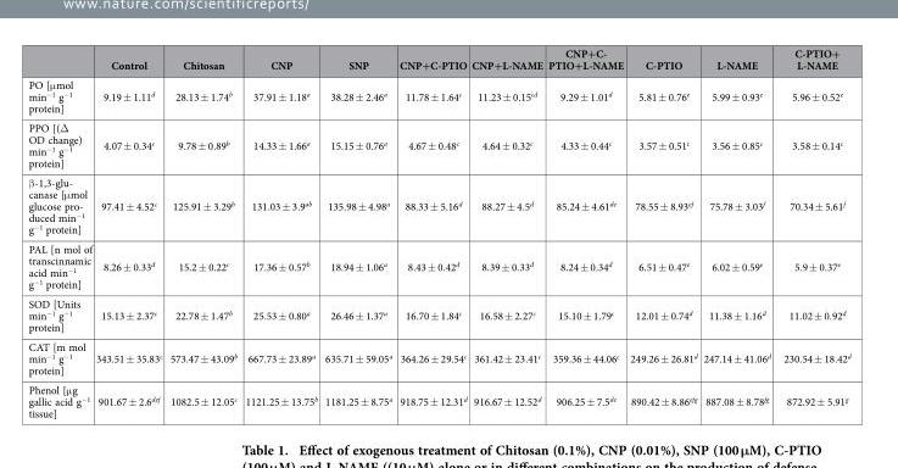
<table><thead><tr><td></td><td>Control</td><td>Chitosan</td><td>CNP</td><td>SNP</td><td>CNP+C-PTIO</td><td>CNP+L-NAME</td><td>CNP+C- PTIO+L-NAME</td><td>C-PTIO</td><td>L-NAME</td><td>C-PTIO+ L-NAME</td></tr></thead><tbody><tr><td>PO [μ mol min<sup>−1</sup> g<sup>−1</sup> protein]</td><td>9.19 ± 1.11<sup>d</sup></td><td>28.13 ± 1.74<sup>b</sup></td><td>37.91 ± 1.18<sup>a</sup></td><td>38.28 ± 2.46<sup>a</sup></td><td>11.78 ± 1.64<sup>c</sup></td><td>11.23 ± 0.15<sup>cd</sup></td><td>9.29 ± 1.01<sup>d</sup></td><td>5.81 ± 0.76<sup>e</sup></td><td>5.99 ± 0.93<sup>e</sup></td><td>5.96 ± 0.52<sup>e</sup></td></tr><tr><td>PPO [(Δ OD change) min<sup>−1</sup> g<sup>−1</sup> protein]</td><td>4.07 ± 0.34<sup>c</sup></td><td>9.78 ± 0.89<sup>b</sup></td><td>14.33 ± 1.66<sup>a</sup></td><td>15.15 ± 0.76<sup>a</sup></td><td>4.67 ± 0.48<sup>c</sup></td><td>4.64 ± 0.32<sup>c</sup></td><td>4.33 ± 0.44<sup>c</sup></td><td>3.57 ± 0.51<sup>c</sup></td><td>3.56 ± 0.85<sup>c</sup></td><td>3.58 ± 0.14<sup>c</sup></td></tr><tr><td>β -1,3-glu- canase [μ mol glucose pro- duced min−1 g−1 protein]</td><td>97.41 ± 4.52<sup>c</sup></td><td>125.91 ± 3.29<sup>b</sup></td><td>131.03 ± 3.9<sup>ab</sup></td><td>135.98 ± 4.98<sup>a</sup></td><td>88.33 ± 5.16<sup>d</sup></td><td>88.27 ± 4.5<sup>d</sup></td><td>85.24 ± 4.61<sup>de</sup></td><td>78.55 ± 8.93<sup>ef</sup></td><td>75.78 ± 3.03<sup>f</sup></td><td>70.34 ± 5.61<sup>f</sup></td></tr><tr><td>PAL [n mol of transcinnamic acid min<sup>−1</sup> g<sup>−1</sup> protein]</td><td>8.26 ± 0.33<sup>d</sup></td><td>15.2 ± 0.22<sup>c</sup></td><td>17.36 ± 0.57<sup>b</sup></td><td>18.94 ± 1.06<sup>a</sup></td><td>8.43 ± 0.42<sup>d</sup></td><td>8.39 ± 0.33<sup>d</sup></td><td>8.24 ± 0.34<sup>d</sup></td><td>6.51 ± 0.47<sup>e</sup></td><td>6.02 ± 0.59<sup>e</sup></td><td>5.9 ± 0.37<sup>e</sup></td></tr><tr><td>SOD [Units min<sup>−1</sup> g<sup>−1</sup> protein]</td><td>15.13 ± 2.37<sup>c</sup></td><td>22.78 ± 1.47<sup>b</sup></td><td>25.53 ± 0.80<sup>a</sup></td><td>26.46 ± 1.37<sup>a</sup></td><td>16.70 ± 1.84<sup>c</sup></td><td>16.58 ± 2.27<sup>c</sup></td><td>15.10 ± 1.79<sup>c</sup></td><td>12.01 ± 0.74<sup>d</sup></td><td>11.38 ± 1.16<sup>d</sup></td><td>11.02 ± 0.92<sup>d</sup></td></tr><tr><td>CAT [m mol min<sup>−1</sup> g<sup>−1</sup> protein]</td><td>343.51 ± 35.83<sup>c</sup></td><td>573.47 ± 43.09<sup>b</sup></td><td>667.73 ± 23.89<sup>a</sup></td><td>635.71 ± 59.05<sup>a</sup></td><td>364.26 ± 29.54<sup>c</sup></td><td>361.42 ± 23.41<sup>c</sup></td><td>359.36 ± 44.06<sup>c</sup></td><td>249.26 ± 26.81<sup>d</sup></td><td>247.14 ± 41.06<sup>d</sup></td><td>230.54 ± 18.42<sup>d</sup></td></tr><tr><td>Phenol [μ g gallic acid g<sup>−1</sup> tissue]</td><td>901.67 ± 2.6<sup>def</sup></td><td>1082.5 ± 12.05<sup>c</sup></td><td>1121.25 ± 13.75<sup>b</sup></td><td>1181.25 ± 8.75<sup>a</sup></td><td>918.75 ± 12.31<sup>d</sup></td><td>916.67 ± 12.52<sup>d</sup></td><td>906.25 ± 7.5<sup>de</sup></td><td>890.42 ± 8.86<sup>efg</sup></td><td>887.08 ± 8.78<sup>fg</sup></td><td>872.92 ± 5.91<sup>g</sup></td></tr></tbody></table>